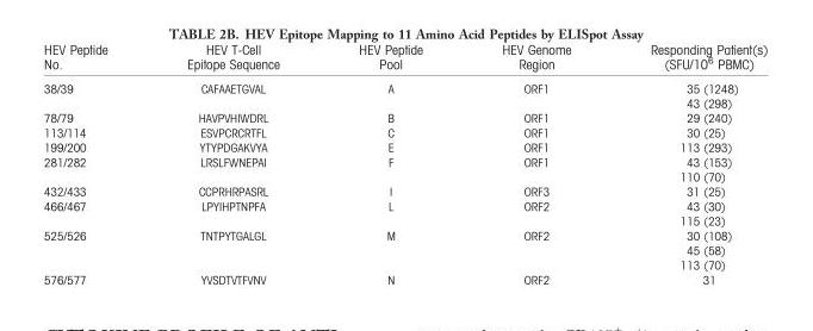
<table><thead><tr><td>HEV Peptide No.</td><td>HEV T-Cell Epitope Sequence</td><td>HEV Peptide Pool</td><td>HEV Genome Region</td><td>Responding Patient(s) (SFU/10<sup>6</sup> PBMC)</td></tr></thead><tbody><tr><td rowspan="2">38/39</td><td rowspan="2">CAFAAETGVAL</td><td rowspan="2">A</td><td rowspan="2">ORF1</td><td>35 (1248)</td></tr><tr><td>43 (298)</td></tr><tr><td>78/79</td><td>HAVPVHIWDRL</td><td>B</td><td>ORF1</td><td>29 (240)</td></tr><tr><td>113/114</td><td>ESVPCRCRTFL</td><td>C</td><td>ORF1</td><td>30 (25)</td></tr><tr><td>199/200</td><td>YTYPDGAKVYA</td><td>E</td><td>ORF1</td><td>113 (293)</td></tr><tr><td rowspan="2">281/282</td><td rowspan="2">LRSLFWNEPAI</td><td rowspan="2">F</td><td rowspan="2">ORF1</td><td>43 (153)</td></tr><tr><td>110 (70)</td></tr><tr><td>432/433</td><td>CCPRHRPASRL</td><td>I</td><td>ORF3</td><td>31 (25)</td></tr><tr><td rowspan="2">466/467</td><td rowspan="2">LPYIHPTNPFA</td><td rowspan="2">L</td><td rowspan="2">ORF2</td><td>43 (30)</td></tr><tr><td>115 (23)</td></tr><tr><td rowspan="3">525/526</td><td rowspan="3">TNTPYTGALGL</td><td rowspan="3">M</td><td rowspan="3">ORF2</td><td>30 (108)</td></tr><tr><td>45 (58)</td></tr><tr><td>113 (70)</td></tr><tr><td>576/577</td><td>YVSDTVTFVNV</td><td>N</td><td>ORF2</td><td>31</td></tr></tbody></table>